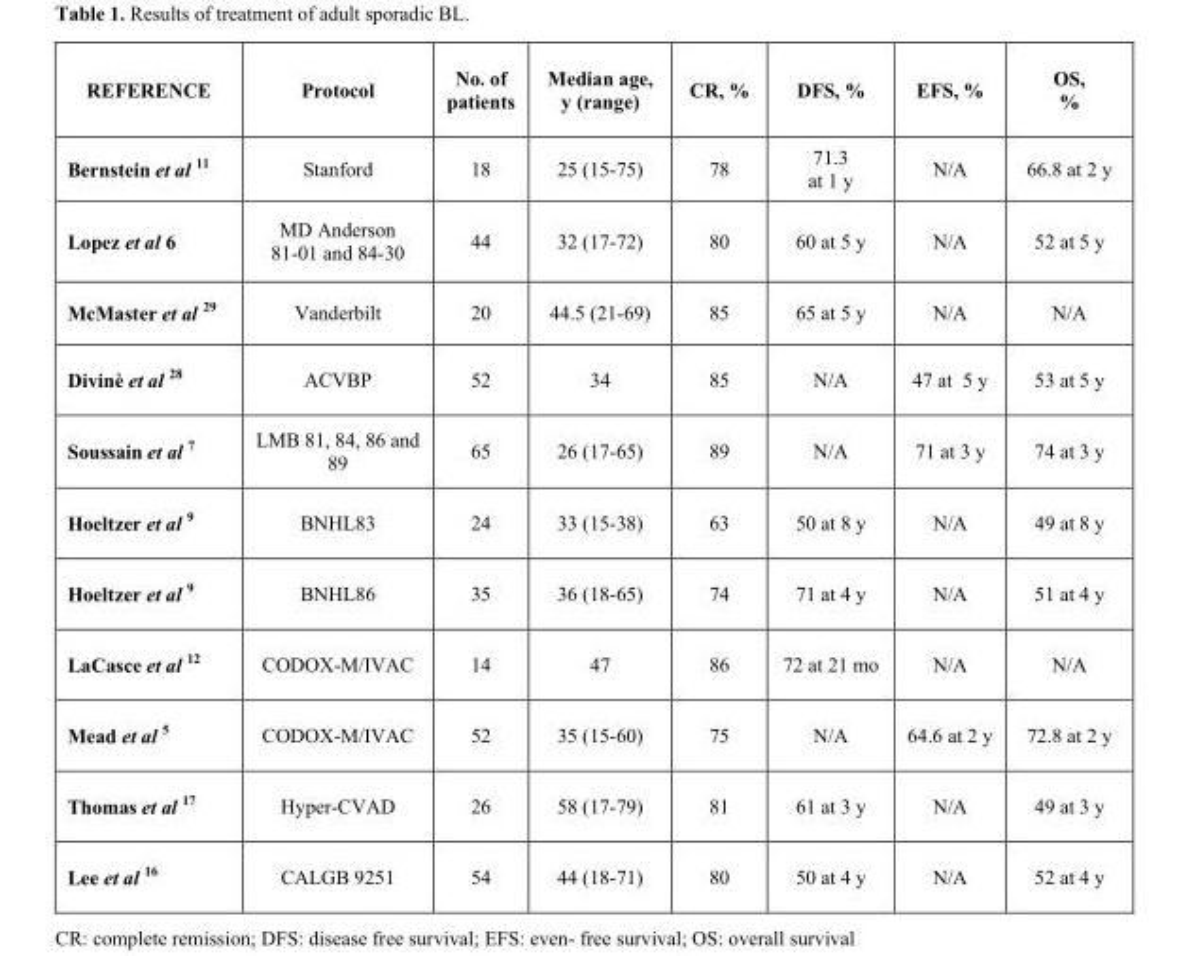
<table><thead><tr><td>REFERENCE</td><td>Protocol</td><td>No. of patients</td><td>Median age, y (range)</td><td>CR, %</td><td>DFS, %</td><td>EFS, %</td><td>OS, %</td></tr></thead><tbody><tr><td>Bernstein et al 11</td><td>Stanford</td><td>18</td><td>25 (15-75)</td><td>78</td><td>71.3 at 1 y</td><td>N/A</td><td>66.8 at 2 y</td></tr><tr><td>Lopez et al 6</td><td>MD Anderson 81-01 and 84-30</td><td>44</td><td>32 (17-72)</td><td>80</td><td>60 at 5 y</td><td>N/A</td><td>52 at 5 y</td></tr><tr><td>McMaster et al 29</td><td>Vanderbilt</td><td>20</td><td>44.5 (21-69)</td><td>85</td><td>65 at 5 y</td><td>N/A</td><td>N/A</td></tr><tr><td>Divinè et al 28</td><td>ACVBP</td><td>52</td><td>34</td><td>85</td><td>N/A</td><td>47 at 5 y</td><td>53 at 5 y</td></tr><tr><td>Soussain et al 7</td><td>LMB 81, 84, 86 and 89</td><td>65</td><td>26 (17-65)</td><td>89</td><td>N/A</td><td>71 at 3 y</td><td>74 at 3 y</td></tr><tr><td>Hoeltzer et al 9</td><td>BNHL83</td><td>24</td><td>33 (15-38)</td><td>63</td><td>50 at 8 y</td><td>N/A</td><td>49 at 8 y</td></tr><tr><td>Hoeltzer et al 9</td><td>BNHL86</td><td>35</td><td>36 (18-65)</td><td>74</td><td>71 at 4 y</td><td>N/A</td><td>51 at 4 y</td></tr><tr><td>LaCasce et al 12</td><td>CODOX-M/IVAC</td><td>14</td><td>47</td><td>86</td><td>72 at 21 mo</td><td>N/A</td><td>N/A</td></tr><tr><td>Mead et al 5</td><td>CODOX-M/IVAC</td><td>52</td><td>35 (15-60)</td><td>75</td><td>N/A</td><td>64.6 at 2 y</td><td>72.8 at 2 y</td></tr><tr><td>Thomas et al 17</td><td>Hyper-CVAD</td><td>26</td><td>58 (17-79)</td><td>81</td><td>61 at 3 y</td><td>N/A</td><td>49 at 3 y</td></tr><tr><td>Lee et al 16</td><td>CALGB 9251</td><td>54</td><td>44 (18-71)</td><td>80</td><td>50 at 4 y</td><td>N/A</td><td>52 at 4 y</td></tr></tbody></table>